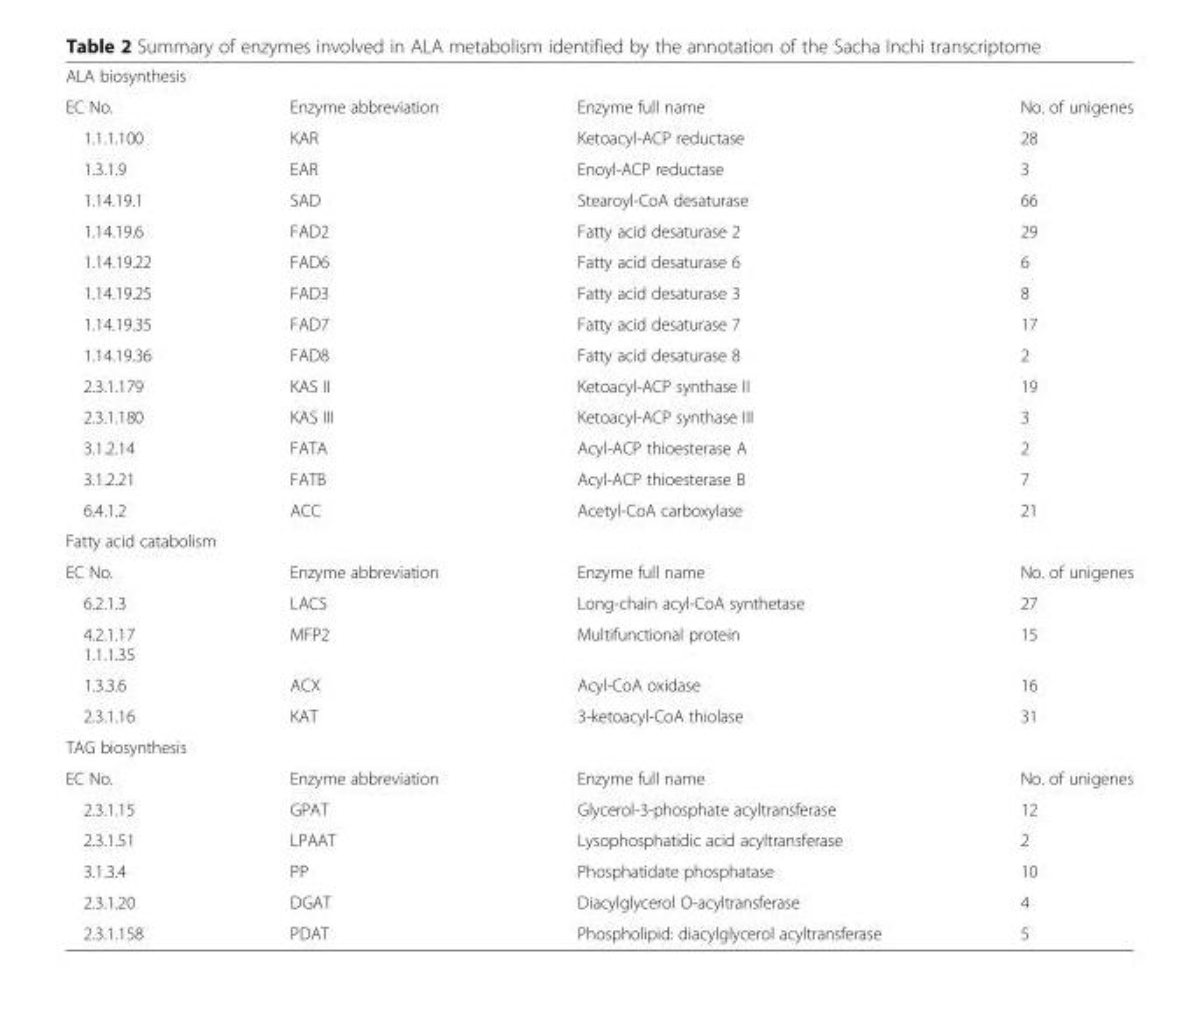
<table><tbody><tr><td colspan="4">ALA biosynthesis</td></tr><tr><td>EC No.</td><td>Enzyme abbreviation</td><td>Enzyme full name</td><td>No. of unigenes</td></tr><tr><td>1.1.1.100</td><td>KAR</td><td>Ketoacyl-ACP reductase</td><td>28</td></tr><tr><td>1.3.1.9</td><td>EAR</td><td>Enoyl-ACP reductase</td><td>3</td></tr><tr><td>1.14.19.1</td><td>SAD</td><td>Stearoyl-CoA desaturase</td><td>66</td></tr><tr><td>1.14.19.6</td><td>FAD2</td><td>Fatty acid desaturase 2</td><td>29</td></tr><tr><td>1.14.19.22</td><td>FAD6</td><td>Fatty acid desaturase 6</td><td>6</td></tr><tr><td>1.14.19.25</td><td>FAD3</td><td>Fatty acid desaturase 3</td><td>8</td></tr><tr><td>1.14.19.35</td><td>FAD7</td><td>Fatty acid desaturase 7</td><td>17</td></tr><tr><td>1.14.19.36</td><td>FAD8</td><td>Fatty acid desaturase 8</td><td>2</td></tr><tr><td>2.3.1.179</td><td>KAS II</td><td>Ketoacyl-ACP synthase II</td><td>19</td></tr><tr><td>2.3.1.180</td><td>KAS III</td><td>Ketoacyl-ACP synthase III</td><td>3</td></tr><tr><td>3.1.2.14</td><td>FATA</td><td>Acyl-ACP thioesterase A</td><td>2</td></tr><tr><td>3.1.2.21</td><td>FATB</td><td>Acyl-ACP thioesterase B</td><td>7</td></tr><tr><td>6.4.1.2</td><td>ACC</td><td>Acetyl-CoA carboxylase</td><td>21</td></tr><tr><td colspan="4">Fatty acid catabolism</td></tr><tr><td>EC No.</td><td>Enzyme abbreviation</td><td>Enzyme full name</td><td>No. of unigenes</td></tr><tr><td>6.2.1.3</td><td>LACS</td><td>Long-chain acyl-CoA synthetase</td><td>27</td></tr><tr><td>4.2.1.17 1.1.1.35</td><td>MFP2</td><td>Multifunctional protein</td><td>15</td></tr><tr><td>1.3.3.6</td><td>ACX</td><td>Acyl-CoA oxidase</td><td>16</td></tr><tr><td>2.3.1.16</td><td>KAT</td><td>3-ketoacyl-CoA thiolase</td><td>31</td></tr><tr><td colspan="4">TAG biosynthesis</td></tr><tr><td>EC No.</td><td>Enzyme abbreviation</td><td>Enzyme full name</td><td>No. of unigenes</td></tr><tr><td>2.3.1.15</td><td>GPAT</td><td>Glycerol-3-phosphate acyltransferase</td><td>12</td></tr><tr><td>2.3.1.51</td><td>LPAAT</td><td>Lysophosphatidic acid acyltransferase</td><td>2</td></tr><tr><td>3.1.3.4</td><td>PP</td><td>Phosphatidate phosphatase</td><td>10</td></tr><tr><td>2.3.1.20</td><td>DGAT</td><td>Diacylglycerol O-acyltransferase</td><td>4</td></tr><tr><td>2.3.1.158</td><td>PDAT</td><td>Phospholipid: diacylglycerol acyltransferase</td><td>5</td></tr></tbody></table>